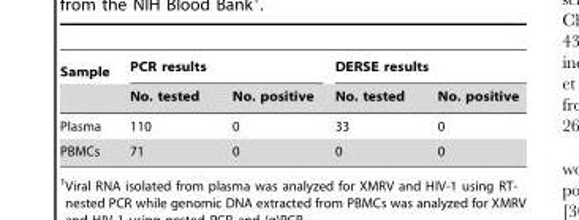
<table><thead><tr><td rowspan="2">Sample</td><td colspan="2">PCR results</td><td colspan="2">DERSE results</td></tr><tr><td>No. tested</td><td>No. positive</td><td>No. tested</td><td>No. positive</td></tr></thead><tbody><tr><td>Plasma</td><td>110</td><td>0</td><td>33</td><td>0</td></tr><tr><td>PBMCs</td><td>71</td><td>0</td><td>0</td><td>0</td></tr></tbody></table>